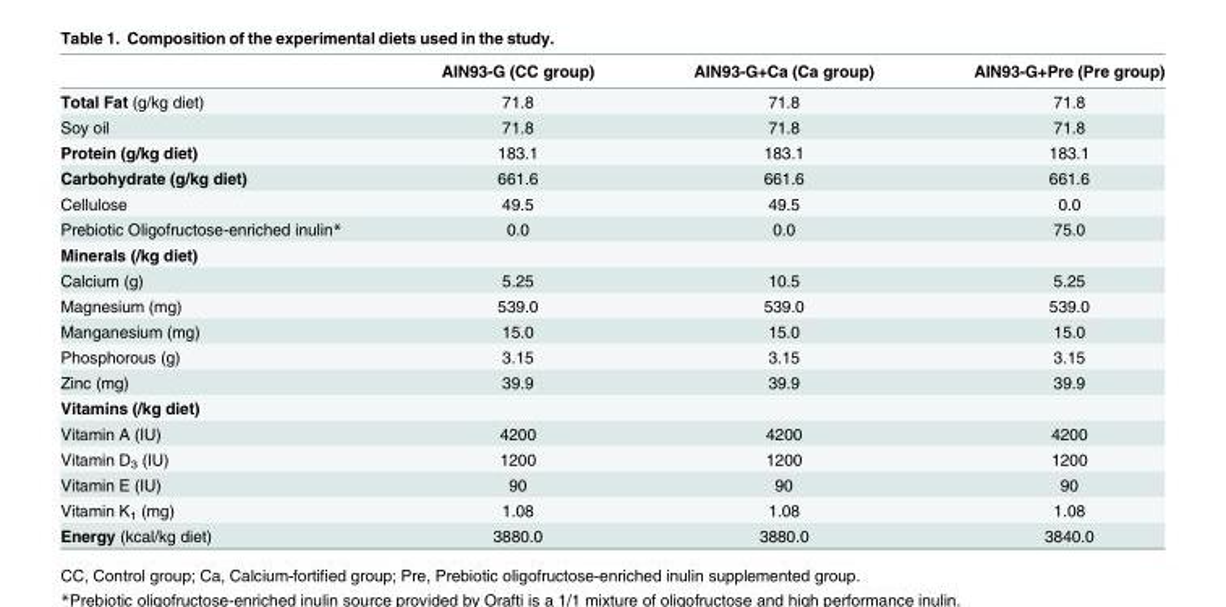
<table><thead><tr><td></td><td>AIN93-G (CC group)</td><td>AIN93-G+Ca (Ca group)</td><td>AIN93-G+Pre (Pre group)</td></tr></thead><tbody><tr><td>Total Fat (g/kg diet)</td><td>71.8</td><td>71.8</td><td>71.8</td></tr><tr><td>Soy oil</td><td>71.8</td><td>71.8</td><td>71.8</td></tr><tr><td>Protein (g/kg diet)</td><td>183.1</td><td>183.1</td><td>183.1</td></tr><tr><td>Carbohydrate (g/kg diet)</td><td>661.6</td><td>661.6</td><td>661.6</td></tr><tr><td>Cellulose</td><td>49.5</td><td>49.5</td><td>0.0</td></tr><tr><td>Prebiotic Oligofructose-enriched inulin*</td><td>0.0</td><td>0.0</td><td>75.0</td></tr><tr><td colspan="4">Minerals (/kg diet)</td></tr><tr><td>Calcium (g)</td><td>5.25</td><td>10.5</td><td>5.25</td></tr><tr><td>Magnesium (mg)</td><td>539.0</td><td>539.0</td><td>539.0</td></tr><tr><td>Manganesium (mg)</td><td>15.0</td><td>15.0</td><td>15.0</td></tr><tr><td>Phosphorous (g)</td><td>3.15</td><td>3.15</td><td>3.15</td></tr><tr><td>Zinc (mg)</td><td>39.9</td><td>39.9</td><td>39.9</td></tr><tr><td colspan="4">Vitamins (/kg diet)</td></tr><tr><td>Vitamin A (IU)</td><td>4200</td><td>4200</td><td>4200</td></tr><tr><td>Vitamin D<sub>3</sub> (IU)</td><td>1200</td><td>1200</td><td>1200</td></tr><tr><td>Vitamin E (IU)</td><td>90</td><td>90</td><td>90</td></tr><tr><td>Vitamin K<sub>1</sub> (mg)</td><td>1.08</td><td>1.08</td><td>1.08</td></tr><tr><td>Energy (kcal/kg diet)</td><td>3880.0</td><td>3880.0</td><td>3840.0</td></tr></tbody></table>